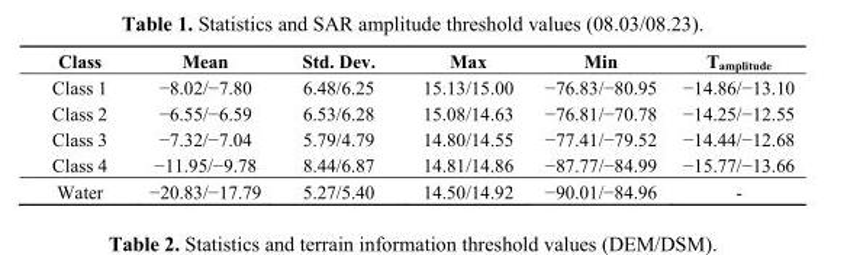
<table><thead><tr><td>Class</td><td>Mean</td><td>Std. Dev.</td><td>Max</td><td>Min</td><td>T<sub>amplitude</sub></td></tr></thead><tbody><tr><td>Class 1</td><td>−8.02/−7.80</td><td>6.48/6.25</td><td>15.13/15.00</td><td>−76.83/−80.95</td><td>−14.86/−13.10</td></tr><tr><td>Class 2</td><td>−6.55/−6.59</td><td>6.53/6.28</td><td>15.08/14.63</td><td>−76.81/−70.78</td><td>−14.25/−12.55</td></tr><tr><td>Class 3</td><td>−7.32/−7.04</td><td>5.79/4.79</td><td>14.80/14.55</td><td>−77.41/−79.52</td><td>−14.44/−12.68</td></tr><tr><td>Class 4</td><td>−11.95/−9.78</td><td>8.44/6.87</td><td>14.81/14.86</td><td>−87.77/−84.99</td><td>−15.77/−13.66</td></tr><tr><td>Water</td><td>−20.83/−17.79</td><td>5.27/5.40</td><td>14.50/14.92</td><td>−90.01/−84.96</td><td>-</td></tr></tbody></table>